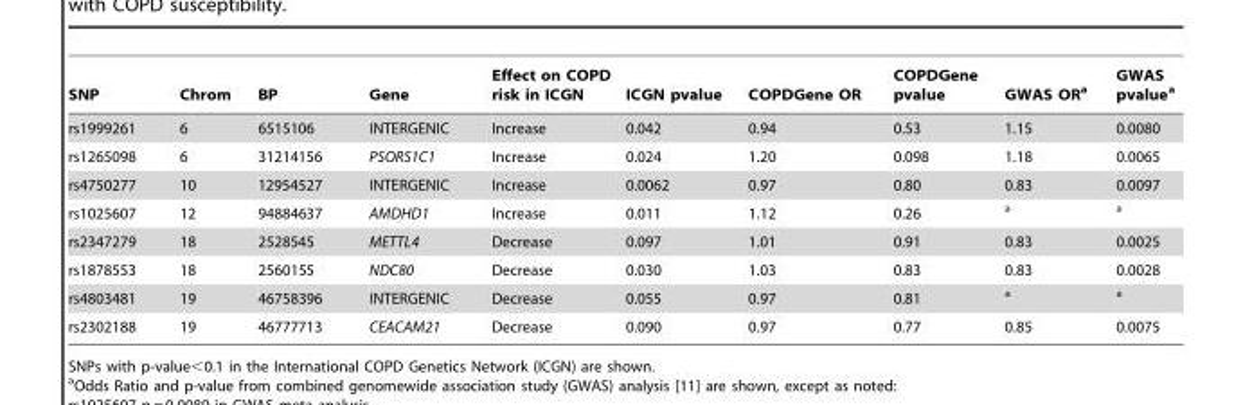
<table><thead><tr><td>SNP</td><td>Chrom</td><td>BP</td><td>Gene</td><td>Effect on COPD risk in ICGN</td><td>ICGN pvalue</td><td>COPDGene OR</td><td>COPDGene pvalue</td><td>GWAS OR<sup>a</sup></td><td>GWAS pvalue<sup>a</sup></td></tr></thead><tbody><tr><td>rs1999261</td><td>6</td><td>6515106</td><td>INTERGENIC</td><td>Increase</td><td>0.042</td><td>0.94</td><td>0.53</td><td>1.15</td><td>0.0080</td></tr><tr><td>rs1265098</td><td>6</td><td>31214156</td><td>PSORS1C1</td><td>Increase</td><td>0.024</td><td>1.20</td><td>0.098</td><td>1.18</td><td>0.0065</td></tr><tr><td>rs4750277</td><td>10</td><td>12954527</td><td>INTERGENIC</td><td>Increase</td><td>0.0062</td><td>0.97</td><td>0.80</td><td>0.83</td><td>0.0097</td></tr><tr><td>rs1025607</td><td>12</td><td>94884637</td><td>AMDHD1</td><td>Increase</td><td>0.011</td><td>1.12</td><td>0.26</td><td>a</td><td>a</td></tr><tr><td>rs2347279</td><td>18</td><td>2528545</td><td>METTL4</td><td>Decrease</td><td>0.097</td><td>1.01</td><td>0.91</td><td>0.83</td><td>0.0025</td></tr><tr><td>rs1878553</td><td>18</td><td>2560155</td><td>NDC80</td><td>Decrease</td><td>0.030</td><td>1.03</td><td>0.83</td><td>0.83</td><td>0.0028</td></tr><tr><td>rs4803481</td><td>19</td><td>46758396</td><td>INTERGENIC</td><td>Decrease</td><td>0.055</td><td>0.97</td><td>0.81</td><td>a</td><td>a</td></tr><tr><td>rs2302188</td><td>19</td><td>46777713</td><td>CEACAM21</td><td>Decrease</td><td>0.090</td><td>0.97</td><td>0.77</td><td>0.85</td><td>0.0075</td></tr></tbody></table>